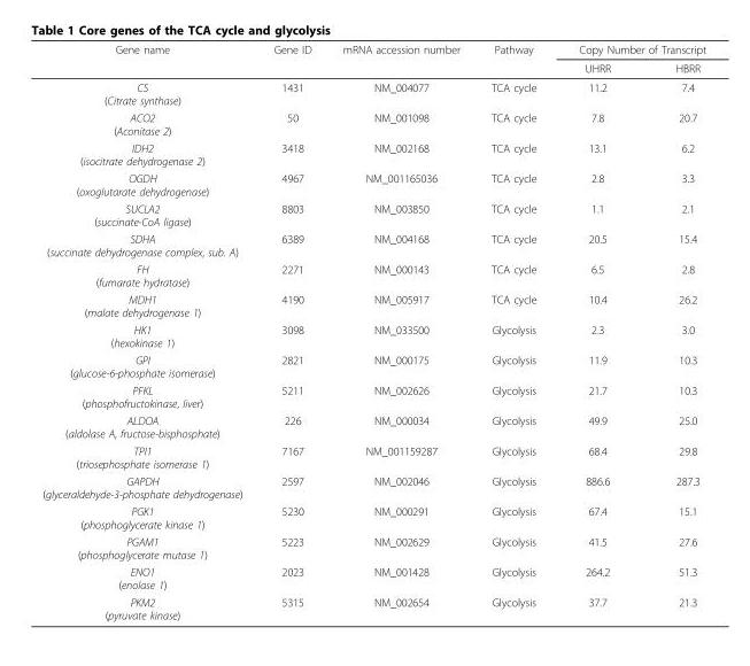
<table><thead><tr><td rowspan="2">Gene name</td><td rowspan="2">Gene ID</td><td rowspan="2">mRNA accession number</td><td rowspan="2">Pathway</td><td colspan="2">Copy Number of Transcript</td></tr><tr><td>UHRR</td><td>HBRR</td></tr></thead><tbody><tr><td>CS (Citrate synthase)</td><td>1431</td><td>NM_004077</td><td>TCA cycle</td><td>11.2</td><td>7.4</td></tr><tr><td>ACO2 (Aconitase 2)</td><td>50</td><td>NM_001098</td><td>TCA cycle</td><td>7.8</td><td>20.7</td></tr><tr><td>IDH2 (isocitrate dehydrogenase 2)</td><td>3418</td><td>NM_002168</td><td>TCA cycle</td><td>13.1</td><td>6.2</td></tr><tr><td>OGDH (oxoglutarate dehydrogenase)</td><td>4967</td><td>NM_001165036</td><td>TCA cycle</td><td>2.8</td><td>3.3</td></tr><tr><td>SUCLA2 (succinate-CoA ligase)</td><td>8803</td><td>NM_003850</td><td>TCA cycle</td><td>1.1</td><td>2.1</td></tr><tr><td>SDHA (succinate dehydrogenase complex, sub. A)</td><td>6389</td><td>NM_004168</td><td>TCA cycle</td><td>20.5</td><td>15.4</td></tr><tr><td>FH (fumarate hydratase)</td><td>2271</td><td>NM_000143</td><td>TCA cycle</td><td>6.5</td><td>2.8</td></tr><tr><td>MDH1 (malate dehydrogenase 1)</td><td>4190</td><td>NM_005917</td><td>TCA cycle</td><td>10.4</td><td>26.2</td></tr><tr><td>HK1 (hexokinase 1)</td><td>3098</td><td>NM_033500</td><td>Glycolysis</td><td>2.3</td><td>3.0</td></tr><tr><td>GPI (glucose-6-phosphate isomerase)</td><td>2821</td><td>NM_000175</td><td>Glycolysis</td><td>11.9</td><td>10.3</td></tr><tr><td>PFKL (phosphofructokinase, liver)</td><td>5211</td><td>NM_002626</td><td>Glycolysis</td><td>21.7</td><td>10.3</td></tr><tr><td>ALDOA (aldolase A, fructose-bisphosphate)</td><td>226</td><td>NM_000034</td><td>Glycolysis</td><td>49.9</td><td>25.0</td></tr><tr><td>TPI1 (triosephosphate isomerase 1)</td><td>7167</td><td>NM_001159287</td><td>Glycolysis</td><td>68.4</td><td>29.8</td></tr><tr><td>GAPDH (glyceraldehyde-3-phosphate dehydrogenase)</td><td>2597</td><td>NM_002046</td><td>Glycolysis</td><td>886.6</td><td>287.3</td></tr><tr><td>PGK1 (phosphoglycerate kinase 1)</td><td>5230</td><td>NM_000291</td><td>Glycolysis</td><td>67.4</td><td>15.1</td></tr><tr><td>PGAM1 (phosphoglycerate mutase 1)</td><td>5223</td><td>NM_002629</td><td>Glycolysis</td><td>41.5</td><td>27.6</td></tr><tr><td>ENO1 (enolase 1)</td><td>2023</td><td>NM_001428</td><td>Glycolysis</td><td>264.2</td><td>51.3</td></tr><tr><td>PKM2 (pyruvate kinase)</td><td>5315</td><td>NM_002654</td><td>Glycolysis</td><td>37.7</td><td>21.3</td></tr></tbody></table>